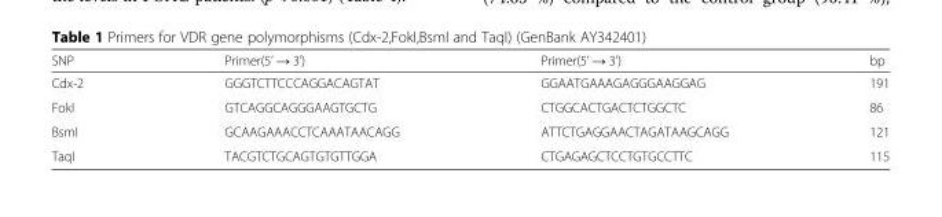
<table><thead><tr><td>SNP</td><td>Primer(5’ → 3’)</td><td>Primer(5’ → 3’)</td><td>bp</td></tr></thead><tbody><tr><td>Cdx-2</td><td>GGGTCTTCCCAGGACAGTAT</td><td>GGAATGAAAGAGGGAAGGAG</td><td>191</td></tr><tr><td>FokI</td><td>GTCAGGCAGGGAAGTGCTG</td><td>CTGGCACTGACTCTGGCTC</td><td>86</td></tr><tr><td>BsmI</td><td>GCAAGAAACCTCAAATAACAGG</td><td>ATTCTGAGGAACTAGATAAGCAGG</td><td>121</td></tr><tr><td>TaqI</td><td>TACGTCTGCAGTGTGTTGGA</td><td>CTGAGAGCTCCTGTGCCTTC</td><td>115</td></tr></tbody></table>